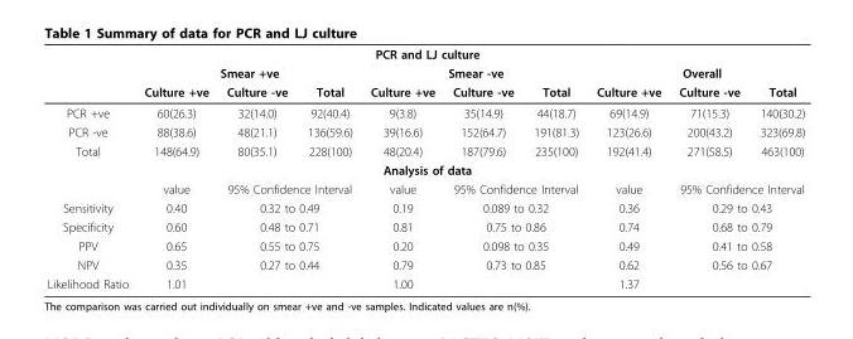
<table><thead><tr><td colspan="10">PCR and LJ culture</td></tr><tr><td rowspan="2"></td><td colspan="3">Smear +ve</td><td colspan="3">Smear -ve</td><td colspan="3">Overall</td></tr><tr><td>Culture +ve</td><td>Culture -ve</td><td>Total</td><td>Culture +ve</td><td>Culture -ve</td><td>Total</td><td>Culture +ve</td><td>Culture -ve</td><td>Total</td></tr></thead><tbody><tr><td>PCR +ve</td><td>60(26.3)</td><td>32(14.0)</td><td>92(40.4)</td><td>9(3.8)</td><td>35(14.9)</td><td>44(18.7)</td><td>69(14.9)</td><td>71(15.3)</td><td>140(30.2)</td></tr><tr><td>PCR -ve</td><td>88(38.6)</td><td>48(21.1)</td><td>136(59.6)</td><td>39(16.6)</td><td>152(64.7)</td><td>191(81.3)</td><td>123(26.6)</td><td>200(43.2)</td><td>323(69.8)</td></tr><tr><td>Total</td><td>148(64.9)</td><td>80(35.1)</td><td>228(100)</td><td>48(20.4)</td><td>187(79.6)</td><td>235(100)</td><td>192(41.4)</td><td>271(58.5)</td><td>463(100)</td></tr><tr><td colspan="10">Analysis of data</td></tr><tr><td></td><td>value</td><td colspan="2">95% Confidence Interval</td><td>value</td><td colspan="2">95% Confidence Interval</td><td>value</td><td colspan="2">95% Confidence Interval</td></tr><tr><td>Sensitivity</td><td>0.40</td><td colspan="2">0.32 to 0.49</td><td>0.19</td><td colspan="2">0.089 to 0.32</td><td>0.36</td><td colspan="2">0.29 to 0.43</td></tr><tr><td>Specificity</td><td>0.60</td><td colspan="2">0.48 to 0.71</td><td>0.81</td><td colspan="2">0.75 to 0.86</td><td>0.74</td><td colspan="2">0.68 to 0.79</td></tr><tr><td>PPV</td><td>0.65</td><td colspan="2">0.55 to 0.75</td><td>0.20</td><td colspan="2">0.098 to 0.35</td><td>0.49</td><td colspan="2">0.41 to 0.58</td></tr><tr><td>NPV</td><td>0.35</td><td colspan="2">0.27 to 0.44</td><td>0.79</td><td colspan="2">0.73 to 0.85</td><td>0.62</td><td colspan="2">0.56 to 0.67</td></tr><tr><td>Likelihood Ratio</td><td>1.01</td><td></td><td></td><td>1.00</td><td></td><td></td><td>1.37</td><td></td><td></td></tr></tbody></table>